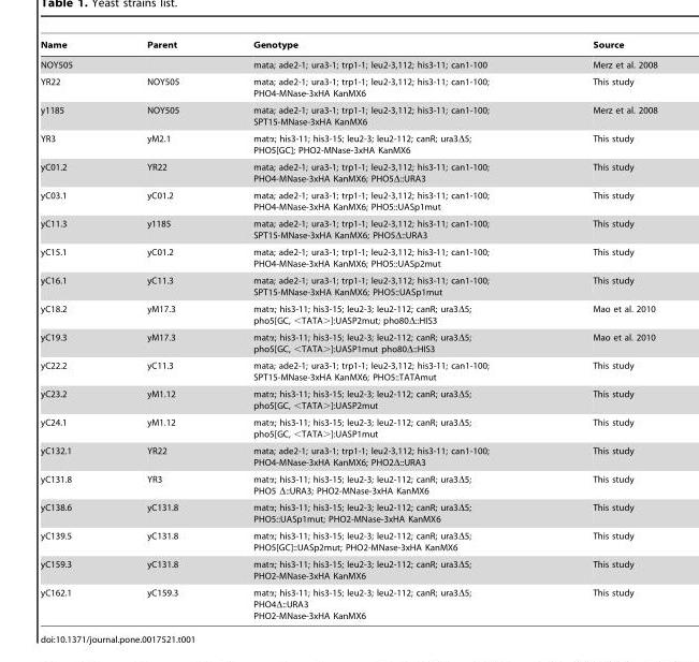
<table><thead><tr><td>Name</td><td>Parent</td><td>Genotype</td><td>Source</td></tr></thead><tbody><tr><td>NOY505</td><td></td><td>mata; ade2-1; ura3-1; trp1-1; leu2-3,112; his3-11; can1-100</td><td>Merz et al. 2008</td></tr><tr><td>YR22</td><td>NOY505</td><td>mata; ade2-1; ura3-1; trp1-1; leu2-3,112; his3-11; can1-100; PHO4-MNase-3xHA KanMX6</td><td>This study</td></tr><tr><td>y1185</td><td>NOY505</td><td>mata; ade2-1; ura3-1; trp1-1; leu2-3,112; his3-11; can1-100; SPT15-MNase-3xHA KanMX6</td><td>Merz et al. 2008</td></tr><tr><td>YR3</td><td>yM2.1</td><td>matα; his3-11; his3-15; leu2-3; leu2-112; canR; ura3Δ5; PHO5[GC]; PHO2-MNase-3xHA KanMX6</td><td>This study</td></tr><tr><td>yC01.2</td><td>YR22</td><td>mata; ade2-1; ura3-1; trp1-1; leu2-3,112; his3-11; can1-100; PHO4-MNase-3xHA KanMX6; PHO5Δ::URA3</td><td>This study</td></tr><tr><td>yC03.1</td><td>yC01.2</td><td>mata; ade2-1; ura3-1; trp1-1; leu2-3,112; his3-11; can1-100; PHO4-MNase-3xHA KanMX6; PHO5::UASp1mut</td><td>This study</td></tr><tr><td>yC11.3</td><td>y1185</td><td>mata; ade2-1; ura3-1; trp1-1; leu2-3,112; his3-11; can1-100; SPT15-MNase-3xHA KanMX6; PHO5Δ::URA3</td><td>This study</td></tr><tr><td>yC15.1</td><td>yC01.2</td><td>mata; ade2-1; ura3-1; trp1-1; leu2-3,112; his3-11; can1-100; PHO4-MNase-3xHA KanMX6; PHO5::UASp2mut</td><td>This study</td></tr><tr><td>yC16.1</td><td>yC11.3</td><td>mata; ade2-1; ura3-1; trp1-1; leu2-3,112; his3-11; can1-100; SPT15-MNase-3xHA KanMX6; PHO5::UASp1mut</td><td>This study</td></tr><tr><td>yC18.2</td><td>yM17.3</td><td>matα; his3-11; his3-15; leu2-3; leu2-112; canR; ura3Δ5; pho5[GC, &lt;TATA&gt;]:UASP2mut; pho80Δ::HIS3</td><td>Mao et al. 2010</td></tr><tr><td>yC19.3</td><td>yM17.3</td><td>matα; his3-11; his3-15; leu2-3; leu2-112; canR; ura3Δ5; pho5[GC, &lt;TATA&gt;]:UASP1mut pho80Δ::HIS3</td><td>Mao et al. 2010</td></tr><tr><td>yC22.2</td><td>yC11.3</td><td>mata; ade2-1; ura3-1; trp1-1; leu2-3,112; his3-11; can1-100; SPT15-MNase-3xHA KanMX6; PHO5::TATAmut</td><td>This study</td></tr><tr><td>yC23.2</td><td>yM1.12</td><td>matα; his3-11; his3-15; leu2-3; leu2-112; canR; ura3Δ5; pho5[GC, &lt;TATA&gt;]:UASP2mut</td><td>This study</td></tr><tr><td>yC24.1</td><td>yM1.12</td><td>matα; his3-11; his3-15; leu2-3; leu2-112; canR; ura3Δ5; pho5[GC, &lt;TATA&gt;]:UASP1mut</td><td>This study</td></tr><tr><td>yC132.1</td><td>YR22</td><td>mata; ade2-1; ura3-1; trp1-1; leu2-3,112; his3-11; can1-100; PHO4-MNase-3xHA KanMX6; PHO2Δ::URA3</td><td>This study</td></tr><tr><td>yC131.8</td><td>YR3</td><td>matα; his3-11; his3-15; leu2-3; leu2-112; canR; ura3Δ5; PHO5 Δ::URA3; PHO2-MNase-3xHA KanMX6</td><td>This study</td></tr><tr><td>yC138.6</td><td>yC131.8</td><td>matα; his3-11; his3-15; leu2-3; leu2-112; canR; ura3Δ5; PHO5::UASp1mut; PHO2-MNase-3xHA KanMX6</td><td>This study</td></tr><tr><td>yC139.5</td><td>yC131.8</td><td>matα; his3-11; his3-15; leu2-3; leu2-112; canR; ura3Δ5; PHO5[GC]::UASp2mut; PHO2-MNase-3xHA KanMX6</td><td>This study</td></tr><tr><td>yC159.3</td><td>yC131.8</td><td>matα; his3-11; his3-15; leu2-3; leu2-112; canR; ura3Δ5; PHO2-MNase-3xHA KanMX6</td><td>This study</td></tr><tr><td>yC162.1</td><td>yC159.3</td><td>matα; his3-11; his3-15; leu2-3; leu2-112; canR; ura3Δ5; PHO4Δ::URA3 PHO2-MNase-3xHA KanMX6</td><td>This study</td></tr></tbody></table>